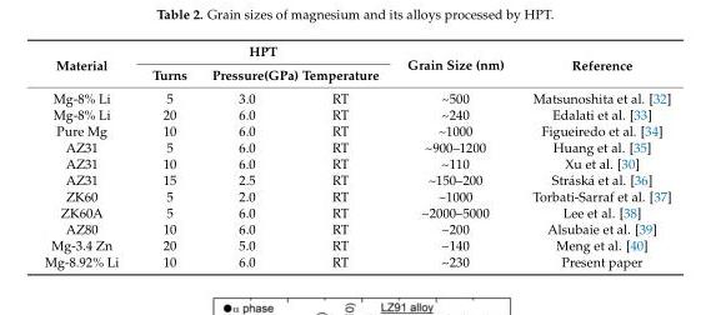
<table><thead><tr><td rowspan="2">Material</td><td colspan="3">HPT</td><td rowspan="2">Grain Size (nm)</td><td rowspan="2">Reference</td></tr><tr><td>Turns</td><td>Pressure(GPa)</td><td>Temperature</td></tr></thead><tbody><tr><td>Mg-8% Li</td><td>5</td><td>3.0</td><td>RT</td><td>~500</td><td>Matsunoshita et al. [32]</td></tr><tr><td>Mg-8% Li</td><td>20</td><td>6.0</td><td>RT</td><td>~240</td><td>Edalati et al. [33]</td></tr><tr><td>Pure Mg</td><td>10</td><td>6.0</td><td>RT</td><td>~1000</td><td>Figueiredo et al. [34]</td></tr><tr><td>AZ31</td><td>5</td><td>6.0</td><td>RT</td><td>~900–1200</td><td>Huang et al. [35]</td></tr><tr><td>AZ31</td><td>10</td><td>6.0</td><td>RT</td><td>~110</td><td>Xu et al. [30]</td></tr><tr><td>AZ31</td><td>15</td><td>2.5</td><td>RT</td><td>~150–200</td><td>Stráská et al. [36]</td></tr><tr><td>ZK60</td><td>5</td><td>2.0</td><td>RT</td><td>~1000</td><td>Torbati-Sarraf et al. [37]</td></tr><tr><td>ZK60A</td><td>5</td><td>6.0</td><td>RT</td><td>~2000–5000</td><td>Lee et al. [38]</td></tr><tr><td>AZ80</td><td>10</td><td>6.0</td><td>RT</td><td>~200</td><td>Alsubaie et al. [39]</td></tr><tr><td>Mg-3.4 Zn</td><td>20</td><td>5.0</td><td>RT</td><td>~140</td><td>Meng et al. [40]</td></tr><tr><td>Mg-8.92% Li</td><td>10</td><td>6.0</td><td>RT</td><td>~230</td><td>Present paper</td></tr></tbody></table>